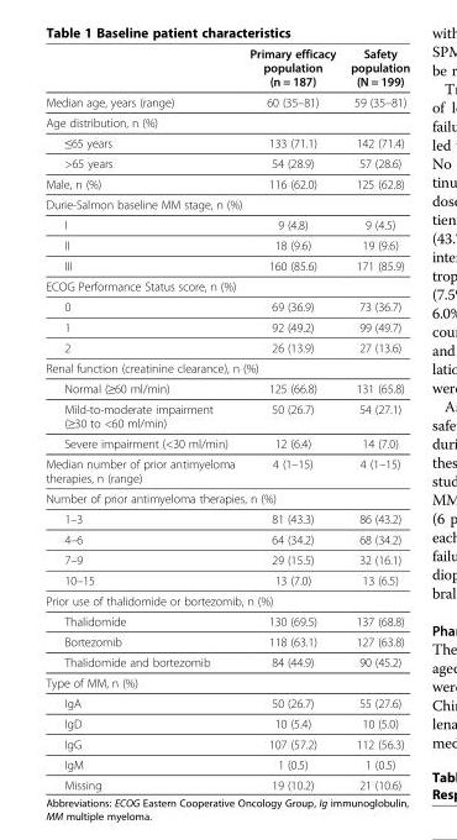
<table><thead><tr><td></td><td>Primary efficacy population (n = 187)</td><td>Safety population (N = 199)</td></tr></thead><tbody><tr><td>Median age, years (range)</td><td>60 (35–81)</td><td>59 (35–81)</td></tr><tr><td colspan="3">Age distribution, n (%)</td></tr><tr><td>≤65 years</td><td>133 (71.1)</td><td>142 (71.4)</td></tr><tr><td>&gt;65 years</td><td>54 (28.9)</td><td>57 (28.6)</td></tr><tr><td>Male, n (%)</td><td>116 (62.0)</td><td>125 (62.8)</td></tr><tr><td colspan="3">Durie-Salmon baseline MM stage, n (%)</td></tr><tr><td>I</td><td>9 (4.8)</td><td>9 (4.5)</td></tr><tr><td>II</td><td>18 (9.6)</td><td>19 (9.6)</td></tr><tr><td>III</td><td>160 (85.6)</td><td>171 (85.9)</td></tr><tr><td colspan="3">ECOG Performance Status score, n (%)</td></tr><tr><td>0</td><td>69 (36.9)</td><td>73 (36.7)</td></tr><tr><td>1</td><td>92 (49.2)</td><td>99 (49.7)</td></tr><tr><td>2</td><td>26 (13.9)</td><td>27 (13.6)</td></tr><tr><td colspan="3">Renal function (creatinine clearance), n (%)</td></tr><tr><td>Normal (≥60 ml/min)</td><td>125 (66.8)</td><td>131 (65.8)</td></tr><tr><td>Mild-to-moderate impairment (≥30 to &lt;60 ml/min)</td><td>50 (26.7)</td><td>54 (27.1)</td></tr><tr><td>Severe impairment (&lt;30 ml/min)</td><td>12 (6.4)</td><td>14 (7.0)</td></tr><tr><td>Median number of prior antimyeloma therapies, n (range)</td><td>4 (1–15)</td><td>4 (1–15)</td></tr><tr><td colspan="3">Number of prior antimyeloma therapies, n (%)</td></tr><tr><td>1–3</td><td>81 (43.3)</td><td>86 (43.2)</td></tr><tr><td>4–6</td><td>64 (34.2)</td><td>68 (34.2)</td></tr><tr><td>7–9</td><td>29 (15.5)</td><td>32 (16.1)</td></tr><tr><td>10–15</td><td>13 (7.0)</td><td>13 (6.5)</td></tr><tr><td colspan="3">Prior use of thalidomide or bortezomib, n (%)</td></tr><tr><td>Thalidomide</td><td>130 (69.5)</td><td>137 (68.8)</td></tr><tr><td>Bortezomib</td><td>118 (63.1)</td><td>127 (63.8)</td></tr><tr><td>Thalidomide and bortezomib</td><td>84 (44.9)</td><td>90 (45.2)</td></tr><tr><td colspan="3">Type of MM, n (%)</td></tr><tr><td>IgA</td><td>50 (26.7)</td><td>55 (27.6)</td></tr><tr><td>IgD</td><td>10 (5.4)</td><td>10 (5.0)</td></tr><tr><td>IgG</td><td>107 (57.2)</td><td>112 (56.3)</td></tr><tr><td>IgM</td><td>1 (0.5)</td><td>1 (0.5)</td></tr><tr><td>Missing</td><td>19 (10.2)</td><td>21 (10.6)</td></tr></tbody></table>